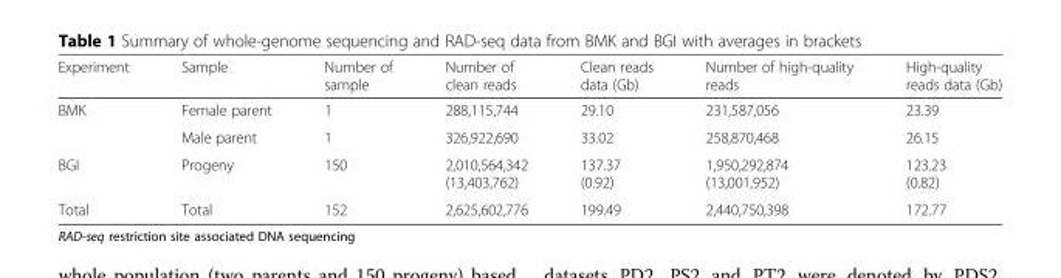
<table><thead><tr><td>Experiment</td><td>Sample</td><td>Number of sample</td><td>Number of clean reads</td><td>Clean reads data (Gb)</td><td>Number of high-quality reads</td><td>High-quality reads data (Gb)</td></tr></thead><tbody><tr><td rowspan="2">BMK</td><td>Female parent</td><td>1</td><td>288,115,744</td><td>29.10</td><td>231,587,056</td><td>23.39</td></tr><tr><td>Male parent</td><td>1</td><td>326,922,690</td><td>33.02</td><td>258,870,468</td><td>26.15</td></tr><tr><td>BGI</td><td>Progeny</td><td>150</td><td>2,010,564,342 (13,403,762)</td><td>137.37 (0.92)</td><td>1,950,292,874 (13,001,952)</td><td>123.23 (0.82)</td></tr><tr><td>Total</td><td>Total</td><td>152</td><td>2,625,602,776</td><td>199.49</td><td>2,440,750,398</td><td>172.77</td></tr></tbody></table>